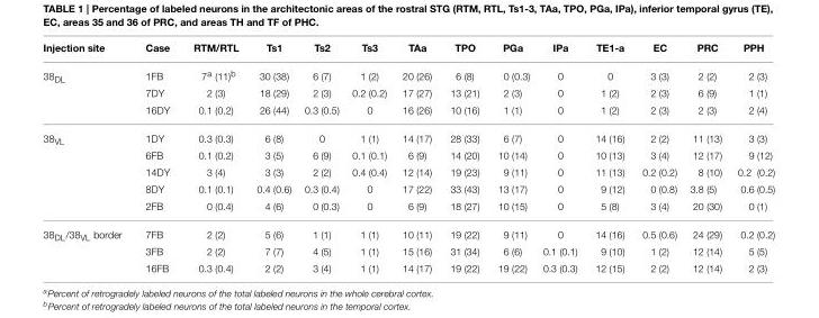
<table><thead><tr><td>Injection site</td><td>Case</td><td>RTM/RTL</td><td>Ts1</td><td>Ts2</td><td>Ts3</td><td>TAa</td><td>TPO</td><td>PGa</td><td>IPa</td><td>TE1-a</td><td>EC</td><td>PRC</td><td>PPH</td></tr></thead><tbody><tr><td rowspan="3">38<sub>DL</sub></td><td>1FB</td><td>7<sup>a</sup> (11)<sup>b</sup></td><td>30 (38)</td><td>6 (7)</td><td>1 (2)</td><td>20 (26)</td><td>6 (8)</td><td>0 (0.3)</td><td>0</td><td>0</td><td>3 (3)</td><td>2 (2)</td><td>2 (3)</td></tr><tr><td>7DY</td><td>2 (3)</td><td>18 (29)</td><td>2 (3)</td><td>0.2 (0.2)</td><td>17 (27)</td><td>13 (21)</td><td>2 (3)</td><td>0</td><td>1 (2)</td><td>2 (3)</td><td>6 (9)</td><td>1 (1)</td></tr><tr><td>16DY</td><td>0.1 (0.2)</td><td>26 (44)</td><td>0.3 (0.5)</td><td>0</td><td>16 (26)</td><td>10 (16)</td><td>1 (1)</td><td>0</td><td>1 (2)</td><td>2 (3)</td><td>2 (3)</td><td>2 (4)</td></tr><tr><td rowspan="5">38<sub>VL</sub></td><td>1DY</td><td>0.3 (0.3)</td><td>6 (8)</td><td>0</td><td>1 (1)</td><td>14 (17)</td><td>28 (33)</td><td>6 (7)</td><td>0</td><td>14 (16)</td><td>2 (2)</td><td>11 (13)</td><td>3 (3)</td></tr><tr><td>6FB</td><td>0.1 (0.2)</td><td>3 (5)</td><td>6 (9)</td><td>0.1 (0.1)</td><td>6 (9)</td><td>14 (20)</td><td>10 (14)</td><td>0</td><td>10 (13)</td><td>3 (4)</td><td>12 (17)</td><td>9 (12)</td></tr><tr><td>14DY</td><td>3 (4)</td><td>3 (3)</td><td>2 (2)</td><td>0.4 (0.4)</td><td>12 (14)</td><td>19 (23)</td><td>9 (11)</td><td>0</td><td>11 (13)</td><td>0.2 (0.2)</td><td>8 (10)</td><td>0.2 (0.2)</td></tr><tr><td>8DY</td><td>0.1 (0.1)</td><td>0.4 (0.6)</td><td>0.3 (0.4)</td><td>0</td><td>17 (22)</td><td>33 (43)</td><td>13 (17)</td><td>0</td><td>9 (12)</td><td>0 (0.8)</td><td>3.8 (5)</td><td>0.6 (0.5)</td></tr><tr><td>2FB</td><td>0 (0.4)</td><td>4 (6)</td><td>0 (0.3)</td><td>0</td><td>6 (9)</td><td>18 (27)</td><td>10 (15)</td><td>0</td><td>5 (8)</td><td>3 (4)</td><td>20 (30)</td><td>0 (1)</td></tr><tr><td rowspan="3">38<sub>DL</sub>/38<sub>VL</sub> border</td><td>7FB</td><td>2 (2)</td><td>5 (6)</td><td>1 (1)</td><td>1 (1)</td><td>10 (11)</td><td>19 (22)</td><td>9 (11)</td><td>0</td><td>14 (16)</td><td>0.5 (0.6)</td><td>24 (29)</td><td>0.2 (0.2)</td></tr><tr><td>3FB</td><td>2 (2)</td><td>7 (7)</td><td>4 (5)</td><td>1 (1)</td><td>15 (16)</td><td>31 (34)</td><td>6 (6)</td><td>0.1 (0.1)</td><td>9 (10)</td><td>1 (2)</td><td>12 (14)</td><td>5 (5)</td></tr><tr><td>16FB</td><td>0.3 (0.4)</td><td>2 (2)</td><td>3 (4)</td><td>1 (1)</td><td>14 (17)</td><td>19 (22)</td><td>19 (22)</td><td>0.3 (0.3)</td><td>12 (15)</td><td>2 (2)</td><td>12 (14)</td><td>2 (3)</td></tr></tbody></table>